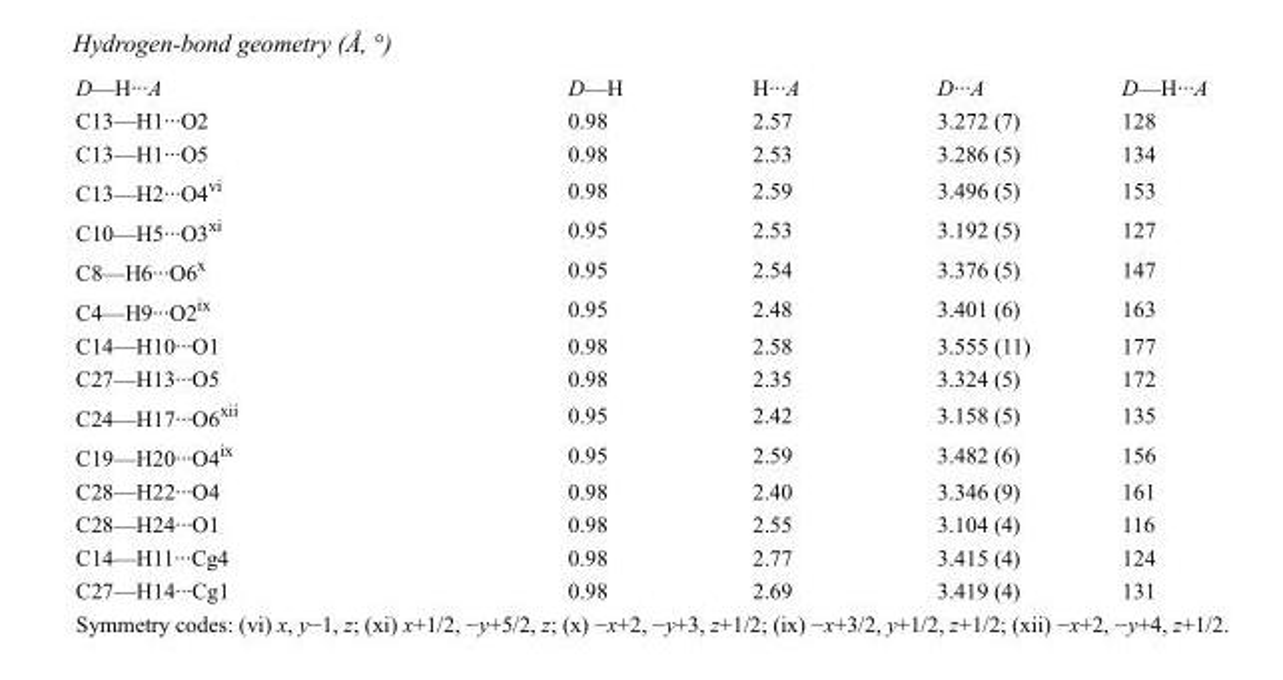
<table><tbody><tr><td>D—H···A</td><td>D—H</td><td>H···A</td><td>D···A</td><td>D—H···A</td></tr><tr><td>C13—H1···O2</td><td>0.98</td><td>2.57</td><td>3.272 (7)</td><td>128</td></tr><tr><td>C13—H1···O5</td><td>0.98</td><td>2.53</td><td>3.286 (5)</td><td>134</td></tr><tr><td>C13—H2···O4<sup>vi</sup></td><td>0.98</td><td>2.59</td><td>3.496 (5)</td><td>153</td></tr><tr><td>C10—H5···O3<sup>xi</sup></td><td>0.95</td><td>2.53</td><td>3.192 (5)</td><td>127</td></tr><tr><td>C8—H6···O6<sup>x</sup></td><td>0.95</td><td>2.54</td><td>3.376 (5)</td><td>147</td></tr><tr><td>C4—H9···O2<sup>ix</sup></td><td>0.95</td><td>2.48</td><td>3.401 (6)</td><td>163</td></tr><tr><td>C14—H10···O1</td><td>0.98</td><td>2.58</td><td>3.555 (11)</td><td>177</td></tr><tr><td>C27—H13···O5</td><td>0.98</td><td>2.35</td><td>3.324 (5)</td><td>172</td></tr><tr><td>C24—H17···O6<sup>xii</sup></td><td>0.95</td><td>2.42</td><td>3.158 (5)</td><td>135</td></tr><tr><td>C19—H20···O4<sup>ix</sup></td><td>0.95</td><td>2.59</td><td>3.482 (6)</td><td>156</td></tr><tr><td>C28—H22···O4</td><td>0.98</td><td>2.40</td><td>3.346 (9)</td><td>161</td></tr><tr><td>C28—H24···O1</td><td>0.98</td><td>2.55</td><td>3.104 (4)</td><td>116</td></tr><tr><td>C14—H11···Cg4</td><td>0.98</td><td>2.77</td><td>3.415 (4)</td><td>124</td></tr><tr><td>C27—H14···Cg1</td><td>0.98</td><td>2.69</td><td>3.419 (4)</td><td>131</td></tr></tbody></table>